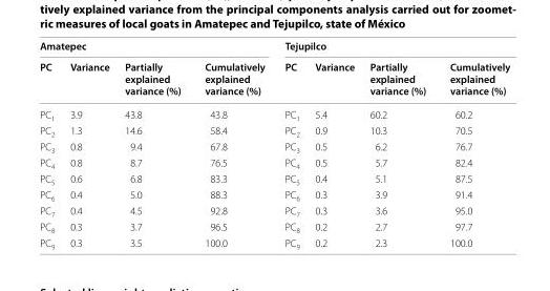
<table><thead><tr><td colspan="4">Amatepec</td><td colspan="4">Tejupilco</td></tr><tr><td>PC</td><td>Variance</td><td>Partially explained variance (%)</td><td>Cumulatively explained variance (%)</td><td>PC</td><td>Variance</td><td>Partially explained variance (%)</td><td>Cumulatively explained variance (%)</td></tr></thead><tbody><tr><td>PC<sub>1</sub></td><td>3.9</td><td>43.8</td><td>43.8</td><td>PC<sub>1</sub></td><td>5.4</td><td>60.2</td><td>60.2</td></tr><tr><td>PC<sub>2</sub></td><td>1.3</td><td>14.6</td><td>58.4</td><td>PC<sub>2</sub></td><td>0.9</td><td>10.3</td><td>70.5</td></tr><tr><td>PC<sub>3</sub></td><td>0.8</td><td>9.4</td><td>67.8</td><td>PC<sub>3</sub></td><td>0.5</td><td>6.2</td><td>76.7</td></tr><tr><td>PC<sub>4</sub></td><td>0.8</td><td>8.7</td><td>76.5</td><td>PC<sub>4</sub></td><td>0.5</td><td>5.7</td><td>82.4</td></tr><tr><td>PC<sub>5</sub></td><td>0.6</td><td>6.8</td><td>83.3</td><td>PC<sub>5</sub></td><td>0.4</td><td>5.1</td><td>87.5</td></tr><tr><td>PC<sub>6</sub></td><td>0.4</td><td>5.0</td><td>88.3</td><td>PC<sub>6</sub></td><td>0.3</td><td>3.9</td><td>91.4</td></tr><tr><td>PC<sub>7</sub></td><td>0.4</td><td>4.5</td><td>92.8</td><td>PC<sub>7</sub></td><td>0.3</td><td>3.6</td><td>95.0</td></tr><tr><td>PC<sub>8</sub></td><td>0.3</td><td>3.7</td><td>96.5</td><td>PC<sub>8</sub></td><td>0.2</td><td>2.7</td><td>97.7</td></tr><tr><td>PC<sub>9</sub></td><td>0.3</td><td>3.5</td><td>100.0</td><td>PC<sub>9</sub></td><td>0.2</td><td>2.3</td><td>100.0</td></tr></tbody></table>